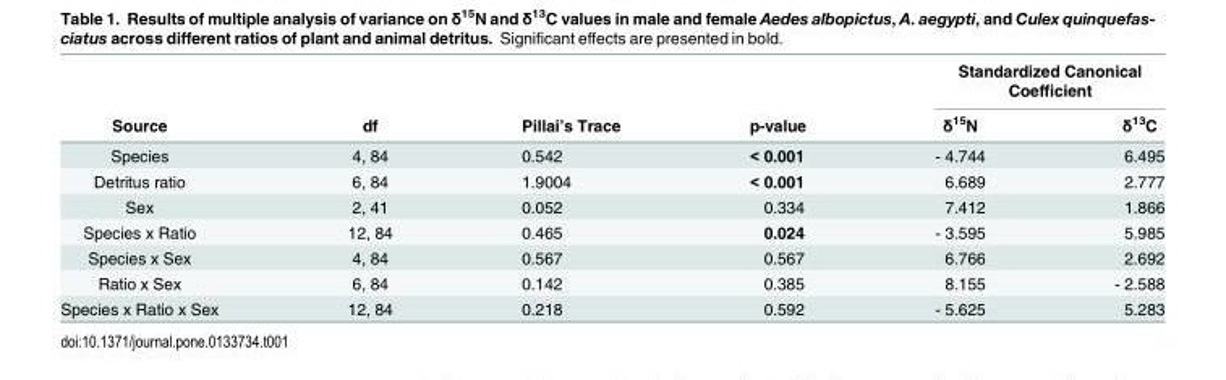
<table><thead><tr><td rowspan="2">Source</td><td rowspan="2">df</td><td rowspan="2">Pillai’s Trace</td><td rowspan="2">p-value</td><td colspan="2">Standardized Canonical Coefficient</td></tr><tr><td>δ<sup>15</sup>N</td><td>δ<sup>13</sup>C</td></tr></thead><tbody><tr><td>Species</td><td>4, 84</td><td>0.542</td><td>&lt; 0.001</td><td>- 4.744</td><td>6.495</td></tr><tr><td>Detritus ratio</td><td>6, 84</td><td>1.9004</td><td>&lt; 0.001</td><td>6.689</td><td>2.777</td></tr><tr><td>Sex</td><td>2, 41</td><td>0.052</td><td>0.334</td><td>7.412</td><td>1.866</td></tr><tr><td>Species x Ratio</td><td>12, 84</td><td>0.465</td><td>0.024</td><td>- 3.595</td><td>5.985</td></tr><tr><td>Species x Sex</td><td>4, 84</td><td>0.567</td><td>0.567</td><td>6.766</td><td>2.692</td></tr><tr><td>Ratio x Sex</td><td>6, 84</td><td>0.142</td><td>0.385</td><td>8.155</td><td>- 2.588</td></tr><tr><td>Species x Ratio x Sex</td><td>12, 84</td><td>0.218</td><td>0.592</td><td>- 5.625</td><td>5.283</td></tr></tbody></table>